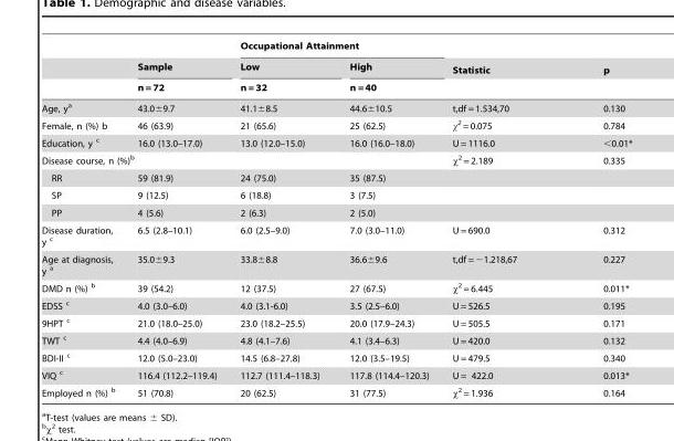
<table><thead><tr><td rowspan="3"></td><td rowspan="3">Sample n = 72</td><td colspan="2">Occupational Attainment</td><td rowspan="3">Statistic</td><td rowspan="3">p</td></tr><tr><td rowspan="2">Low n = 32</td><td rowspan="2">High n = 40</td></tr><tr></tr></thead><tbody><tr><td>Age, y<sup>a</sup></td><td>43.0±9.7</td><td>41.1±8.5</td><td>44.6±10.5</td><td>t,df = 1.534,70</td><td>0.130</td></tr><tr><td>Female, n (%) b</td><td>46 (63.9)</td><td>21 (65.6)</td><td>25 (62.5)</td><td>χ<sup>2</sup> = 0.075</td><td>0.784</td></tr><tr><td>Education, y c</td><td>16.0 (13.0–17.0)</td><td>13.0 (12.0–15.0)</td><td>16.0 (16.0–18.0)</td><td>U = 1116.0</td><td>&lt;0.01*</td></tr><tr><td>Disease course, n (%)<sup>b</sup></td><td></td><td></td><td></td><td>x2 = 2.189</td><td>0.335</td></tr><tr><td>RR</td><td>59 (81.9)</td><td>24 (75.0)</td><td>35 (87.5)</td><td></td><td></td></tr><tr><td>SP</td><td>9 (12.5)</td><td>6 (18.8)</td><td>3 (7.5)</td><td></td><td></td></tr><tr><td>PP</td><td>4 (5.6)</td><td>2 (6.3)</td><td>2 (5.0)</td><td></td><td></td></tr><tr><td>Disease duration, y c</td><td>6.5 (2.8–10.1)</td><td>6.0 (2.5–9.0)</td><td>7.0 (3.0–11.0)</td><td>U = 690.0</td><td>0.312</td></tr><tr><td>Age at diagnosis, y a</td><td>35.0±9.3</td><td>33.8±8.8</td><td>36.6±9.6</td><td>t,df = −1.218,67</td><td>0.227</td></tr><tr><td>DMD n (%) b</td><td>39 (54.2)</td><td>12 (37.5)</td><td>27 (67.5)</td><td>x2 = 6.445</td><td>0.011*</td></tr><tr><td>EDSS c</td><td>4.0 (3.0–6.0)</td><td>4.0 (3.1-6.0)</td><td>3.5 (2.5–6.0)</td><td>U = 526.5</td><td>0.195</td></tr><tr><td>9HPT c</td><td>21.0 (18.0–25.0)</td><td>23.0 (18.2–25.5)</td><td>20.0 (17.9–24.3)</td><td>U = 505.5</td><td>0.171</td></tr><tr><td>TWT c</td><td>4.4 (4.0–6.9)</td><td>4.8 (4.1–7.6)</td><td>4.1 (3.4–6.3)</td><td>U = 420.0</td><td>0.132</td></tr><tr><td>BDI-II c</td><td>12.0 (5.0–23.0)</td><td>14.5 (6.8–27.8)</td><td>12.0 (3.5–19.5)</td><td>U = 479.5</td><td>0.340</td></tr><tr><td>VIQ c</td><td>116.4 (112.2–119.4)</td><td>112.7 (111.4–118.3)</td><td>117.8 (114.4–120.3)</td><td>U = 422.0</td><td>0.013*</td></tr><tr><td>Employed n (%) b</td><td>51 (70.8)</td><td>20 (62.5)</td><td>31 (77.5)</td><td>x2 = 1.936</td><td>0.164</td></tr></tbody></table>